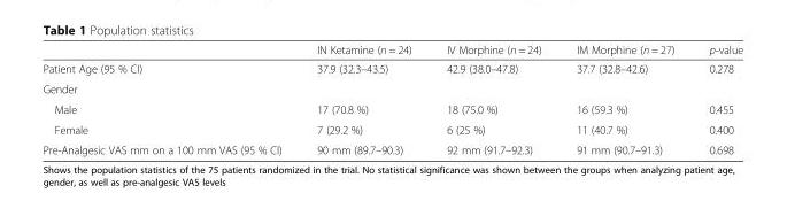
<table><thead><tr><td></td><td>IN Ketamine (n = 24)</td><td>IV Morphine (n = 24)</td><td>IM Morphine (n = 27)</td><td>p-value</td></tr></thead><tbody><tr><td>Patient Age (95 % CI)</td><td>37.9 (32.3–43.5)</td><td>42.9 (38.0–47.8)</td><td>37.7 (32.8–42.6)</td><td>0.278</td></tr><tr><td colspan="5">Gender</td></tr><tr><td>Male</td><td>17 (70.8 %)</td><td>18 (75.0 %)</td><td>16 (59.3 %)</td><td>0.455</td></tr><tr><td>Female</td><td>7 (29.2 %)</td><td>6 (25 %)</td><td>11 (40.7 %)</td><td>0.400</td></tr><tr><td>Pre-Analgesic VAS mm on a 100 mm VAS (95 % CI)</td><td>90 mm (89.7–90.3)</td><td>92 mm (91.7–92.3)</td><td>91 mm (90.7–91.3)</td><td>0.698</td></tr></tbody></table>